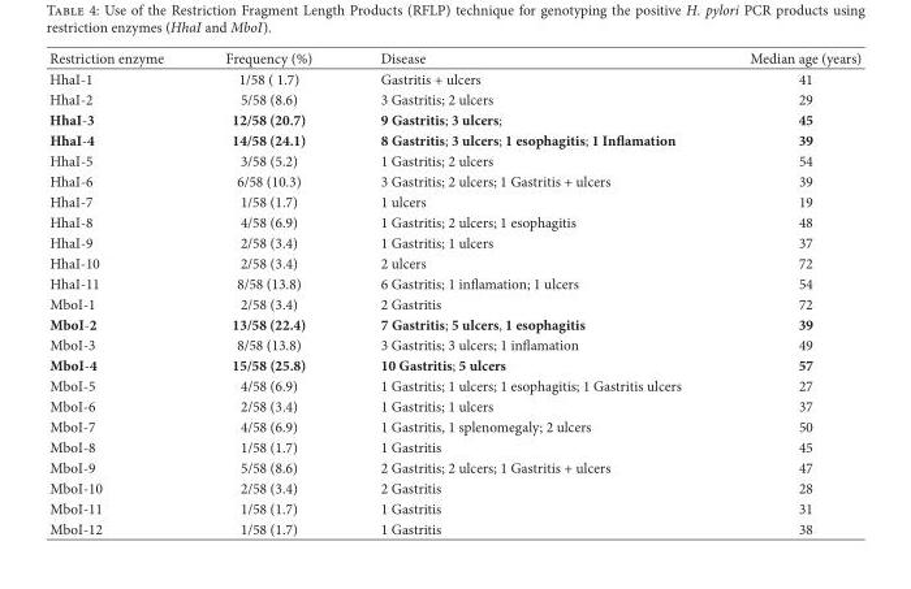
<table><thead><tr><td>Restriction enzyme</td><td>Frequency (%)</td><td>Disease</td><td>Median age (years)</td></tr></thead><tbody><tr><td>HhaI-1</td><td>1/58 ( 1.7)</td><td>Gastritis + ulcers</td><td>41</td></tr><tr><td>HhaI-2</td><td>5/58 (8.6)</td><td>3 Gastritis; 2 ulcers</td><td>29</td></tr><tr><td>HhaI-3</td><td>12/58 (20.7)</td><td>9 Gastritis; 3 ulcers;</td><td>45</td></tr><tr><td>HhaI-4</td><td>14/58 (24.1)</td><td>8 Gastritis; 3 ulcers; 1 esophagitis; 1 I��a�atio�</td><td>39</td></tr><tr><td>HhaI-5</td><td>3/58 (5.2)</td><td>1 Gastritis; 2 ulcers</td><td>54</td></tr><tr><td>HhaI-6</td><td>6/58 (10.3)</td><td>3 Gastritis; 2 ulcers; 1 Gastritis + ulcers</td><td>39</td></tr><tr><td>HhaI-7</td><td>1/58 (1.7)</td><td>1 ulcers</td><td>19</td></tr><tr><td>HhaI-8</td><td>4/58 (6.9)</td><td>1 Gastritis; 2 ulcers; 1 esophagitis</td><td>48</td></tr><tr><td>HhaI-9</td><td>2/58 (3.4)</td><td>1 Gastritis; 1 ulcers</td><td>37</td></tr><tr><td>HhaI-10</td><td>2/58 (3.4)</td><td>2 ulcers</td><td>72</td></tr><tr><td>HhaI-11</td><td>8/58 (13.8)</td><td>6 Gastritis; 1 in�amation; 1 ulcers</td><td>54</td></tr><tr><td>MboI-1</td><td>2/58 (3.4)</td><td>2 Gastritis</td><td>72</td></tr><tr><td>MboI-2</td><td>13/58 (22.4)</td><td>7 Gastritis; 5 ulcers, 1 esophagitis</td><td>39</td></tr><tr><td>MboI-3</td><td>8/58 (13.8)</td><td>3 Gastritis; 3 ulcers; 1 in�amation</td><td>49</td></tr><tr><td>MboI-4</td><td>15/58 (25.8)</td><td>10 Gastritis; 5 ulcers</td><td>57</td></tr><tr><td>MboI-5</td><td>4/58 (6.9)</td><td>1 Gastritis; 1 ulcers; 1 esophagitis; 1 Gastritis ulcers</td><td>27</td></tr><tr><td>MboI-6</td><td>2/58 (3.4)</td><td>1 Gastritis; 1 ulcers</td><td>37</td></tr><tr><td>MboI-7</td><td>4/58 (6.9)</td><td>1 Gastritis, 1 splenomegaly; 2 ulcers</td><td>50</td></tr><tr><td>MboI-8</td><td>1/58 (1.7)</td><td>1 Gastritis</td><td>45</td></tr><tr><td>MboI-9</td><td>5/58 (8.6)</td><td>2 Gastritis; 2 ulcers; 1 Gastritis + ulcers</td><td>47</td></tr><tr><td>MboI-10</td><td>2/58 (3.4)</td><td>2 Gastritis</td><td>28</td></tr><tr><td>MboI-11</td><td>1/58 (1.7)</td><td>1 Gastritis</td><td>31</td></tr><tr><td>MboI-12</td><td>1/58 (1.7)</td><td>1 Gastritis</td><td>38</td></tr></tbody></table>